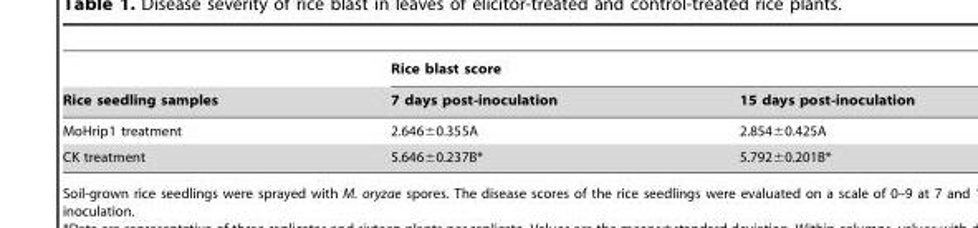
<table><thead><tr><td rowspan="2">Rice seedling samples</td><td colspan="2">Rice blast score</td></tr><tr><td>7 days post-inoculation</td><td>15 days post-inoculation</td></tr></thead><tbody><tr><td>MoHrip1 treatment</td><td>2.646±0.355A</td><td>2.854±0.425A</td></tr><tr><td>CK treatment</td><td>5.646±0.237B*</td><td>5.792±0.201B*</td></tr></tbody></table>